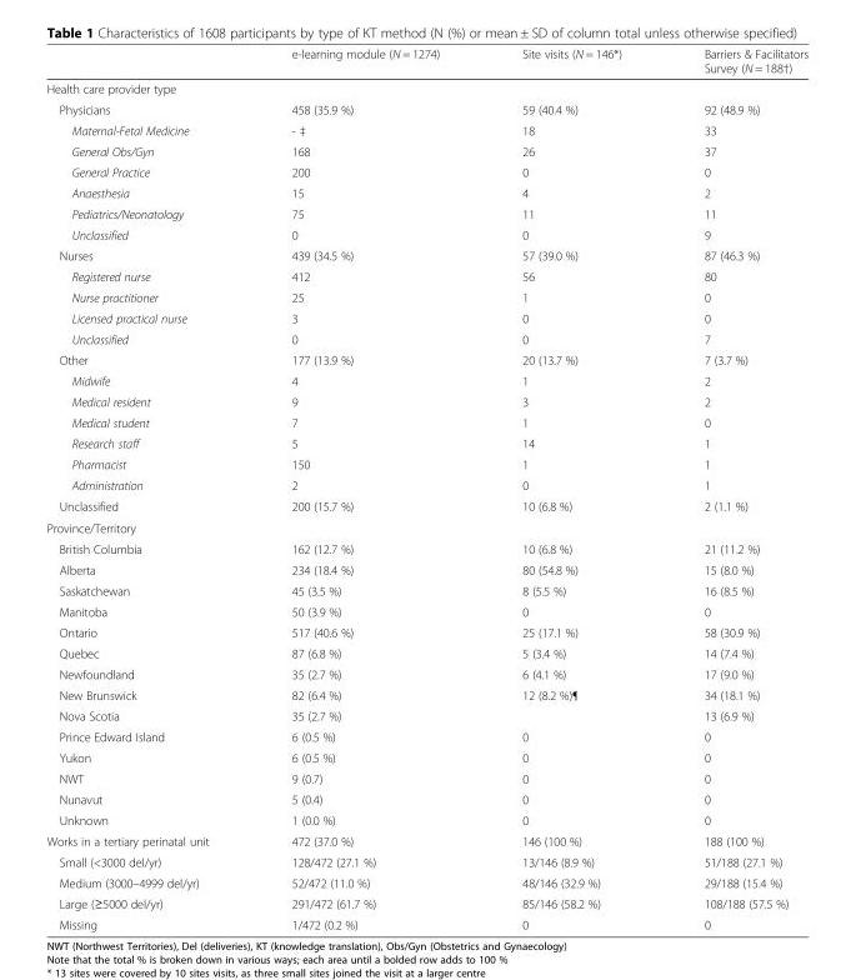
<table><thead><tr><td></td><td>e-learning module (N = 1274)</td><td>Site visits (N = 146*)</td><td>Barriers &amp; Facilitators Survey (N = 188†)</td></tr></thead><tbody><tr><td colspan="4">Health care provider type</td></tr><tr><td>Physicians</td><td>458 (35.9 %)</td><td>59 (40.4 %)</td><td>92 (48.9 %)</td></tr><tr><td>Maternal-Fetal Medicine</td><td>- ‡</td><td>18</td><td>33</td></tr><tr><td>General Obs/Gyn</td><td>168</td><td>26</td><td>37</td></tr><tr><td>General Practice</td><td>200</td><td>0</td><td>0</td></tr><tr><td>Anaesthesia</td><td>15</td><td>4</td><td>2</td></tr><tr><td>Pediatrics/Neonatology</td><td>75</td><td>11</td><td>11</td></tr><tr><td>Unclassified</td><td>0</td><td>0</td><td>9</td></tr><tr><td>Nurses</td><td>439 (34.5 %)</td><td>57 (39.0 %)</td><td>87 (46.3 %)</td></tr><tr><td>Registered nurse</td><td>412</td><td>56</td><td>80</td></tr><tr><td>Nurse practitioner</td><td>25</td><td>1</td><td>0</td></tr><tr><td>Licensed practical nurse</td><td>3</td><td>0</td><td>0</td></tr><tr><td>Unclassified</td><td>0</td><td>0</td><td>7</td></tr><tr><td>Other</td><td>177 (13.9 %)</td><td>20 (13.7 %)</td><td>7 (3.7 %)</td></tr><tr><td>Midwife</td><td>4</td><td>1</td><td>2</td></tr><tr><td>Medical resident</td><td>9</td><td>3</td><td>2</td></tr><tr><td>Medical student</td><td>7</td><td>1</td><td>0</td></tr><tr><td>Research staff</td><td>5</td><td>14</td><td>1</td></tr><tr><td>Pharmacist</td><td>150</td><td>1</td><td>1</td></tr><tr><td>Administration</td><td>2</td><td>0</td><td>1</td></tr><tr><td>Unclassified</td><td>200 (15.7 %)</td><td>10 (6.8 %)</td><td>2 (1.1 %)</td></tr><tr><td colspan="4">Province/Territory</td></tr><tr><td>British Columbia</td><td>162 (12.7 %)</td><td>10 (6.8 %)</td><td>21 (11.2 %)</td></tr><tr><td>Alberta</td><td>234 (18.4 %)</td><td>80 (54.8 %)</td><td>15 (8.0 %)</td></tr><tr><td>Saskatchewan</td><td>45 (3.5 %)</td><td>8 (5.5 %)</td><td>16 (8.5 %)</td></tr><tr><td>Manitoba</td><td>50 (3.9 %)</td><td>0</td><td>0</td></tr><tr><td>Ontario</td><td>517 (40.6 %)</td><td>25 (17.1 %)</td><td>58 (30.9 %)</td></tr><tr><td>Quebec</td><td>87 (6.8 %)</td><td>5 (3.4 %)</td><td>14 (7.4 %)</td></tr><tr><td>Newfoundland</td><td>35 (2.7 %)</td><td>6 (4.1 %)</td><td>17 (9.0 %)</td></tr><tr><td>New Brunswick</td><td>82 (6.4 %)</td><td rowspan="2">12 (8.2 %)¶</td><td>34 (18.1 %)</td></tr><tr><td>Nova Scotia</td><td>35 (2.7 %)</td><td>13 (6.9 %)</td></tr><tr><td>Prince Edward Island</td><td>6 (0.5 %)</td><td>0</td><td>0</td></tr><tr><td>Yukon</td><td>6 (0.5 %)</td><td>0</td><td>0</td></tr><tr><td>NWT</td><td>9 (0.7)</td><td>0</td><td>0</td></tr><tr><td>Nunavut</td><td>5 (0.4)</td><td>0</td><td>0</td></tr><tr><td>Unknown</td><td>1 (0.0 %)</td><td>0</td><td>0</td></tr><tr><td>Works in a tertiary perinatal unit</td><td>472 (37.0 %)</td><td>146 (100 %)</td><td>188 (100 %)</td></tr><tr><td>Small (&lt;3000 del/yr)</td><td>128/472 (27.1 %)</td><td>13/146 (8.9 %)</td><td>51/188 (27.1 %)</td></tr><tr><td>Medium (3000–4999 del/yr)</td><td>52/472 (11.0 %)</td><td>48/146 (32.9 %)</td><td>29/188 (15.4 %)</td></tr><tr><td>Large (≥5000 del/yr)</td><td>291/472 (61.7 %)</td><td>85/146 (58.2 %)</td><td>108/188 (57.5 %)</td></tr><tr><td>Missing</td><td>1/472 (0.2 %)</td><td>0</td><td>0</td></tr></tbody></table>